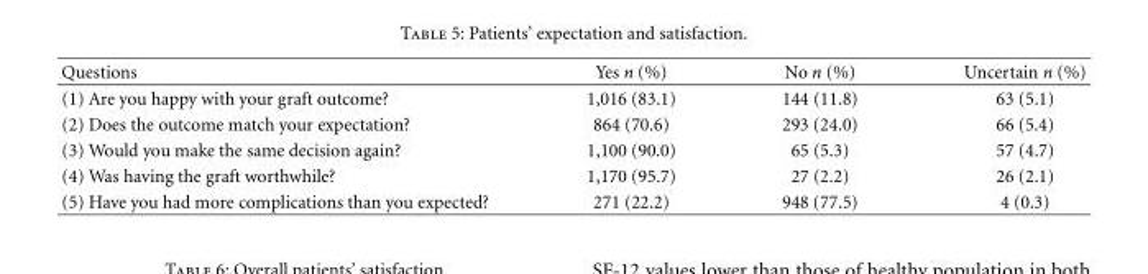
<table><thead><tr><td>Questions</td><td>Yes n (%)</td><td>No n (%)</td><td>Uncertain n (%)</td></tr></thead><tbody><tr><td>(1) Are you happy with your graft outcome?</td><td>1,016 (83.1)</td><td>144 (11.8)</td><td>63 (5.1)</td></tr><tr><td>(2) Does the outcome match your expectation?</td><td>864 (70.6)</td><td>293 (24.0)</td><td>66 (5.4)</td></tr><tr><td>(3) Would you make the same decision again?</td><td>1,100 (90.0)</td><td>65 (5.3)</td><td>57 (4.7)</td></tr><tr><td>(4) Was having the graft worthwhile?</td><td>1,170 (95.7)</td><td>27 (2.2)</td><td>26 (2.1)</td></tr><tr><td>(5) Have you had more complications than you expected?</td><td>271 (22.2)</td><td>948 (77.5)</td><td>4 (0.3)</td></tr></tbody></table>